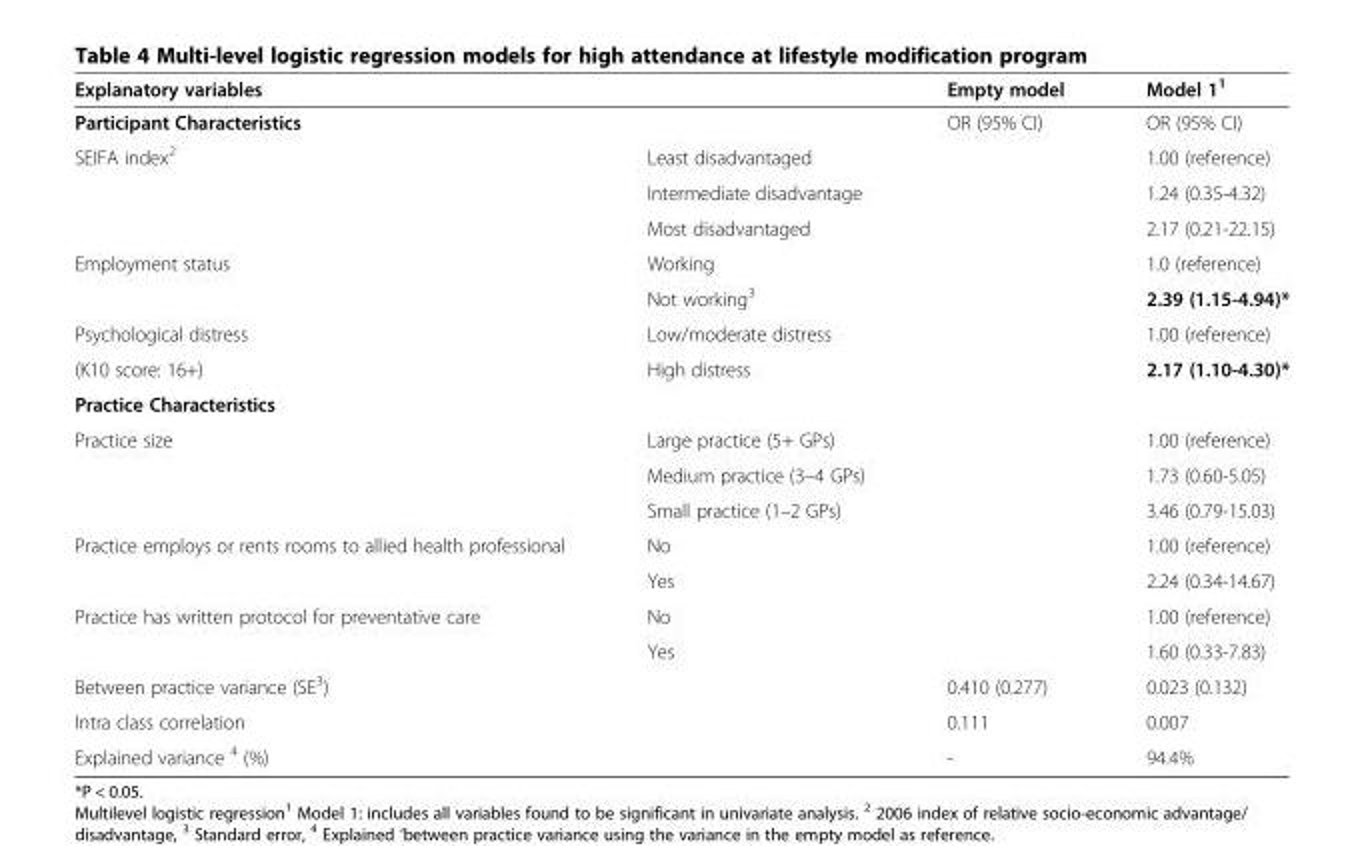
<table><thead><tr><td>Explanatory variables</td><td></td><td>Empty model</td><td>Model 1<sup>1</sup></td></tr></thead><tbody><tr><td>Participant Characteristics</td><td></td><td>OR (95% CI)</td><td>OR (95% CI)</td></tr><tr><td rowspan="3">SEIFA index<sup>2</sup></td><td>Least disadvantaged</td><td></td><td>1.00 (reference)</td></tr><tr><td>Intermediate disadvantage</td><td></td><td>1.24 (0.35-4.32)</td></tr><tr><td>Most disadvantaged</td><td></td><td>2.17 (0.21-22.15)</td></tr><tr><td rowspan="2">Employment status</td><td>Working</td><td rowspan="2"></td><td>1.0 (reference)</td></tr><tr><td>Not working<sup>3</sup></td><td>2.39 (1.15-4.94)*</td></tr><tr><td>Psychological distress</td><td>Low/moderate distress</td><td rowspan="2"></td><td>1.00 (reference)</td></tr><tr><td>(K10 score: 16+)</td><td>High distress</td><td>2.17 (1.10-4.30)*</td></tr><tr><td colspan="4">Practice Characteristics</td></tr><tr><td rowspan="3">Practice size</td><td>Large practice (5+ GPs)</td><td></td><td>1.00 (reference)</td></tr><tr><td>Medium practice (3–4 GPs)</td><td rowspan="2"></td><td>1.73 (0.60-5.05)</td></tr><tr><td>Small practice (1–2 GPs)</td><td>3.46 (0.79-15.03)</td></tr><tr><td rowspan="2">Practice employs or rents rooms to allied health professional</td><td>No</td><td rowspan="2"></td><td>1.00 (reference)</td></tr><tr><td>Yes</td><td>2.24 (0.34-14.67)</td></tr><tr><td rowspan="2">Practice has written protocol for preventative care</td><td>No</td><td rowspan="2"></td><td>1.00 (reference)</td></tr><tr><td>Yes</td><td>1.60 (0.33-7.83)</td></tr><tr><td>Between practice variance (SE<sup>3</sup>)</td><td></td><td>0.410 (0.277)</td><td>0.023 (0.132)</td></tr><tr><td>Intra class correlation</td><td></td><td>0.111</td><td>0.007</td></tr><tr><td>Explained variance <sup>4</sup> (%)</td><td></td><td>-</td><td>94.4%</td></tr></tbody></table>